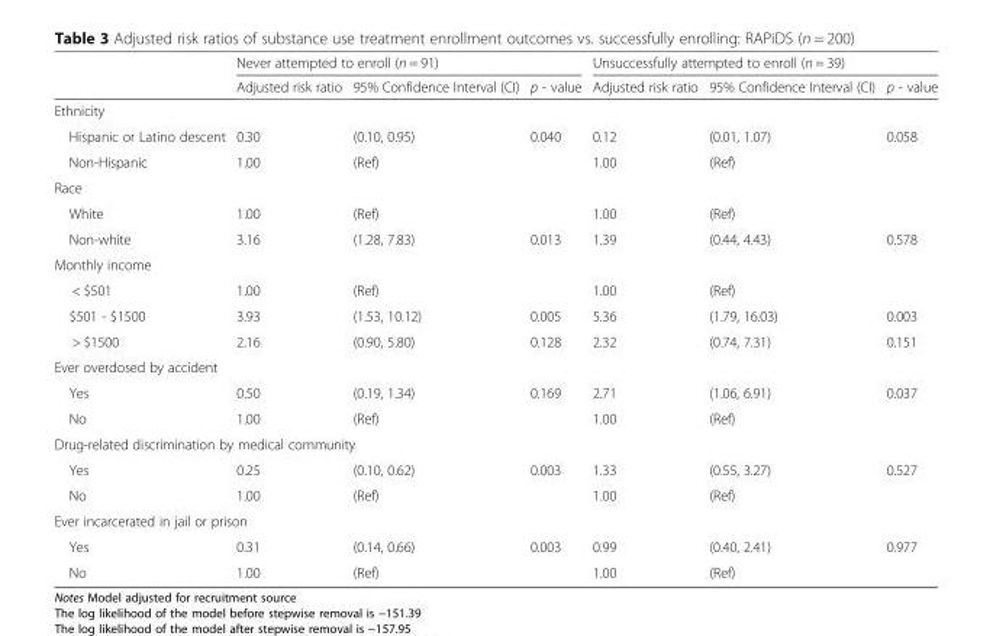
<table><thead><tr><td rowspan="2"></td><td colspan="3">Never attempted to enroll (n = 91)</td><td colspan="3">Unsuccessfully attempted to enroll (n = 39)</td></tr><tr><td>Adjusted risk ratio</td><td>95% Confidence Interval (CI)</td><td>p - value</td><td>Adjusted risk ratio</td><td>95% Confidence Interval (CI)</td><td>p - value</td></tr></thead><tbody><tr><td colspan="7">Ethnicity</td></tr><tr><td>Hispanic or Latino descent</td><td>0.30</td><td>(0.10, 0.95)</td><td>0.040</td><td>0.12</td><td>(0.01, 1.07)</td><td>0.058</td></tr><tr><td>Non-Hispanic</td><td>1.00</td><td>(Ref)</td><td></td><td>1.00</td><td>(Ref)</td><td></td></tr><tr><td colspan="7">Race</td></tr><tr><td>White</td><td>1.00</td><td>(Ref)</td><td></td><td>1.00</td><td>(Ref)</td><td></td></tr><tr><td>Non-white</td><td>3.16</td><td>(1.28, 7.83)</td><td>0.013</td><td>1.39</td><td>(0.44, 4.43)</td><td>0.578</td></tr><tr><td colspan="7">Monthly income</td></tr><tr><td>&lt; $501</td><td>1.00</td><td>(Ref)</td><td></td><td>1.00</td><td>(Ref)</td><td></td></tr><tr><td>$501 - $1500</td><td>3.93</td><td>(1.53, 10.12)</td><td>0.005</td><td>5.36</td><td>(1.79, 16.03)</td><td>0.003</td></tr><tr><td>&gt; $1500</td><td>2.16</td><td>(0.90, 5.80)</td><td>0.128</td><td>2.32</td><td>(0.74, 7.31)</td><td>0.151</td></tr><tr><td colspan="7">Ever overdosed by accident</td></tr><tr><td>Yes</td><td>0.50</td><td>(0.19, 1.34)</td><td>0.169</td><td>2.71</td><td>(1.06, 6.91)</td><td>0.037</td></tr><tr><td>No</td><td>1.00</td><td>(Ref)</td><td></td><td>1.00</td><td>(Ref)</td><td></td></tr><tr><td colspan="7">Drug-related discrimination by medical community</td></tr><tr><td>Yes</td><td>0.25</td><td>(0.10, 0.62)</td><td>0.003</td><td>1.33</td><td>(0.55, 3.27)</td><td>0.527</td></tr><tr><td>No</td><td>1.00</td><td>(Ref)</td><td></td><td>1.00</td><td>(Ref)</td><td></td></tr><tr><td colspan="7">Ever incarcerated in jail or prison</td></tr><tr><td>Yes</td><td>0.31</td><td>(0.14, 0.66)</td><td>0.003</td><td>0.99</td><td>(0.40, 2.41)</td><td>0.977</td></tr><tr><td>No</td><td>1.00</td><td>(Ref)</td><td></td><td>1.00</td><td>(Ref)</td><td></td></tr></tbody></table>